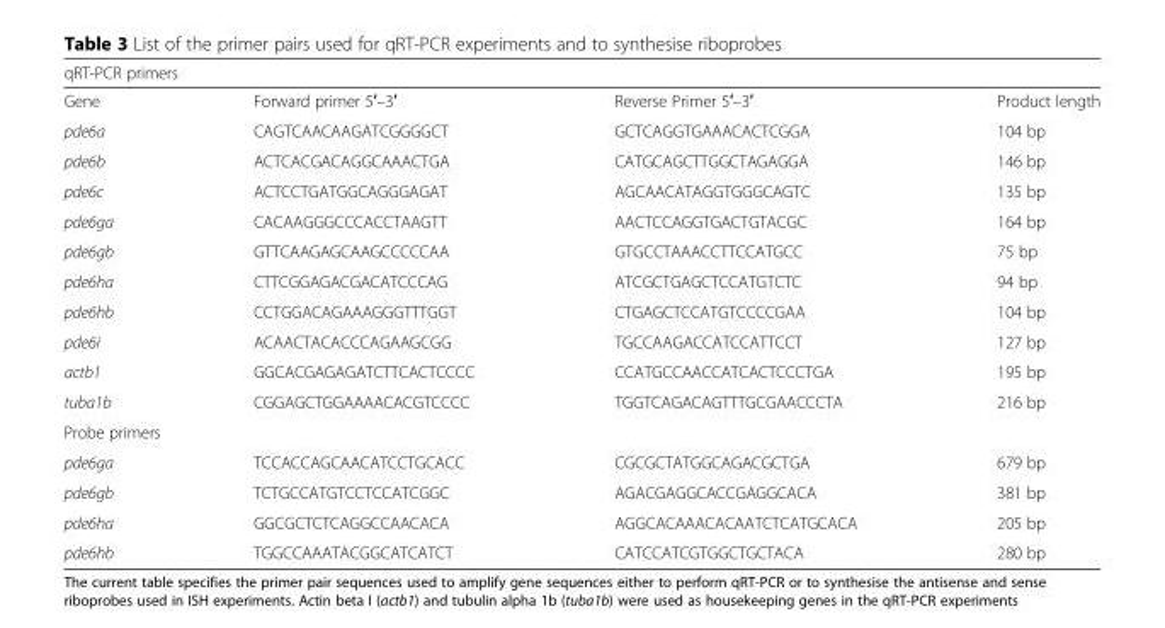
<table><thead><tr><td colspan="4">qRT-PCR primers</td></tr><tr><td>Gene</td><td>Forward primer 5′–3′</td><td>Reverse Primer 5′–3′</td><td>Product length</td></tr></thead><tbody><tr><td>pde6a</td><td>CAGTCAACAAGATCGGGGCT</td><td>GCTCAGGTGAAACACTCGGA</td><td>104 bp</td></tr><tr><td>pde6b</td><td>ACTCACGACAGGCAAACTGA</td><td>CATGCAGCTTGGCTAGAGGA</td><td>146 bp</td></tr><tr><td>pde6c</td><td>ACTCCTGATGGCAGGGAGAT</td><td>AGCAACATAGGTGGGCAGTC</td><td>135 bp</td></tr><tr><td>pde6ga</td><td>CACAAGGGCCCACCTAAGTT</td><td>AACTCCAGGTGACTGTACGC</td><td>164 bp</td></tr><tr><td>pde6gb</td><td>GTTCAAGAGCAAGCCCCCAA</td><td>GTGCCTAAACCTTCCATGCC</td><td>75 bp</td></tr><tr><td>pde6ha</td><td>CTTCGGAGACGACATCCCAG</td><td>ATCGCTGAGCTCCATGTCTC</td><td>94 bp</td></tr><tr><td>pde6hb</td><td>CCTGGACAGAAAGGGTTTGGT</td><td>CTGAGCTCCATGTCCCCGAA</td><td>104 bp</td></tr><tr><td>pde6i</td><td>ACAACTACACCCAGAAGCGG</td><td>TGCCAAGACCATCCATTCCT</td><td>127 bp</td></tr><tr><td>actb1</td><td>GGCACGAGAGATCTTCACTCCCC</td><td>CCATGCCAACCATCACTCCCTGA</td><td>195 bp</td></tr><tr><td>tuba1b</td><td>CGGAGCTGGAAAACACGTCCCC</td><td>TGGTCAGACAGTTTGCGAACCCTA</td><td>216 bp</td></tr><tr><td colspan="4">Probe primers</td></tr><tr><td>pde6ga</td><td>TCCACCAGCAACATCCTGCACC</td><td>CGCGCTATGGCAGACGCTGA</td><td>679 bp</td></tr><tr><td>pde6gb</td><td>TCTGCCATGTCCTCCATCGGC</td><td>AGACGAGGCACCGAGGCACA</td><td>381 bp</td></tr><tr><td>pde6ha</td><td>GGCGCTCTCAGGCCAACACA</td><td>AGGCACAAACACAATCTCATGCACA</td><td>205 bp</td></tr><tr><td>pde6hb</td><td>TGGCCAAATACGGCATCATCT</td><td>CATCCATCGTGGCTGCTACA</td><td>280 bp</td></tr></tbody></table>